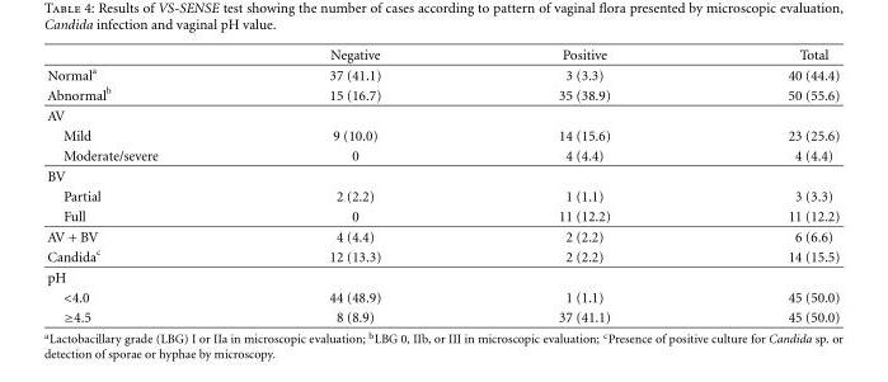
<table><thead><tr><td></td><td>Negative</td><td>Positive</td><td>Total</td></tr></thead><tbody><tr><td>Normal<sup>a</sup></td><td>37 (41.1)</td><td>3 (3.3)</td><td>40 (44.4)</td></tr><tr><td>Abnormal<sup>b</sup></td><td>15 (16.7)</td><td>35 (38.9)</td><td>50 (55.6)</td></tr><tr><td colspan="4">AV</td></tr><tr><td>Mild</td><td>9 (10.0)</td><td>14 (15.6)</td><td>23 (25.6)</td></tr><tr><td>Moderate/severe</td><td>0</td><td>4 (4.4)</td><td>4 (4.4)</td></tr><tr><td colspan="4">BV</td></tr><tr><td>Partial</td><td>2 (2.2)</td><td>1 (1.1)</td><td>3 (3.3)</td></tr><tr><td>Full</td><td>0</td><td>11 (12.2)</td><td>11 (12.2)</td></tr><tr><td>AV + BV</td><td>4 (4.4)</td><td>2 (2.2)</td><td>6 (6.6)</td></tr><tr><td>Candida<sup>c</sup></td><td>12 (13.3)</td><td>2 (2.2)</td><td>14 (15.5)</td></tr><tr><td colspan="4">pH</td></tr><tr><td>&lt;4.0</td><td>44 (48.9)</td><td>1 (1.1)</td><td>45 (50.0)</td></tr><tr><td>≥4.5</td><td>8 (8.9)</td><td>37 (41.1)</td><td>45 (50.0)</td></tr></tbody></table>